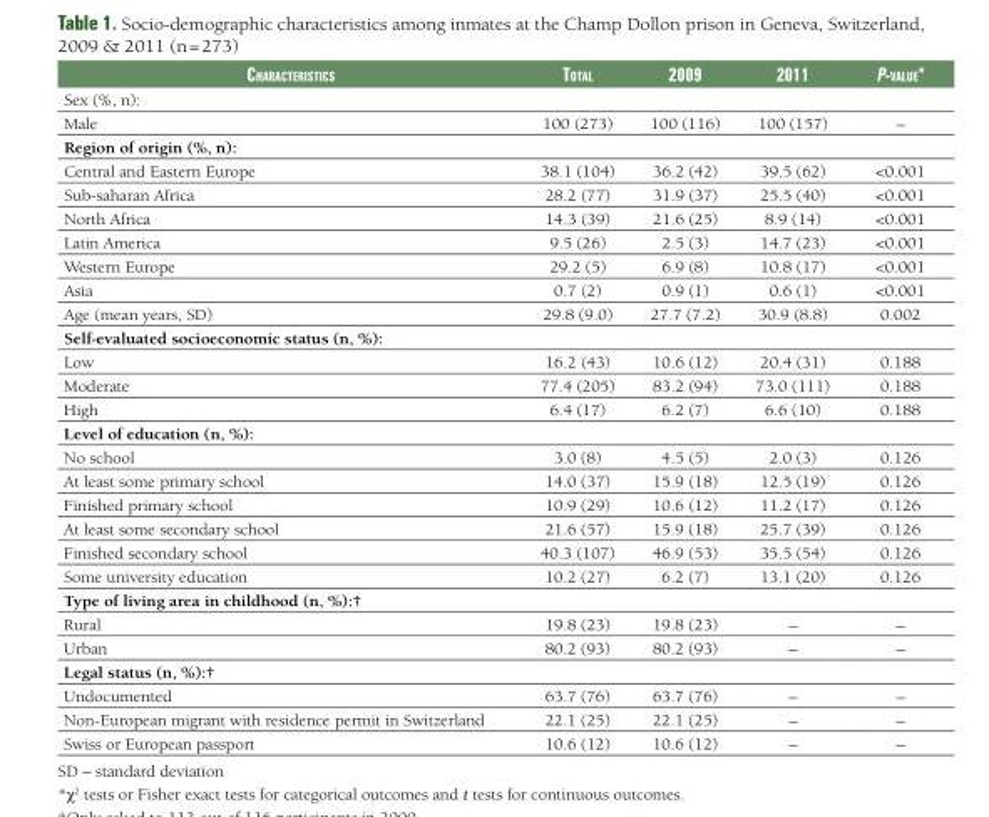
<table><thead><tr><td>CharaCteristiCs</td><td>total</td><td>2009</td><td>2011</td><td>P-value*</td></tr></thead><tbody><tr><td colspan="5">Sex (%, n):</td></tr><tr><td>Male</td><td>100 (273)</td><td>100 (116)</td><td>100 (157)</td><td>–</td></tr><tr><td colspan="5">Region of origin (%, n):</td></tr><tr><td>Central and Eastern Europe</td><td>38.1 (104)</td><td>36.2 (42)</td><td>39.5 (62)</td><td>&lt;0.001</td></tr><tr><td>Sub-saharan Africa</td><td>28.2 (77)</td><td>31.9 (37)</td><td>25.5 (40)</td><td>&lt;0.001</td></tr><tr><td>North Africa</td><td>14.3 (39)</td><td>21.6 (25)</td><td>8.9 (14)</td><td>&lt;0.001</td></tr><tr><td>Latin America</td><td>9.5 (26)</td><td>2.5 (3)</td><td>14.7 (23)</td><td>&lt;0.001</td></tr><tr><td>Western Europe</td><td>29.2 (5)</td><td>6.9 (8)</td><td>10.8 (17)</td><td>&lt;0.001</td></tr><tr><td>Asia</td><td>0.7 (2)</td><td>0.9 (1)</td><td>0.6 (1)</td><td>&lt;0.001</td></tr><tr><td>Age (mean years, SD)</td><td>29.8 (9.0)</td><td>27.7 (7.2)</td><td>30.9 (8.8)</td><td>0.002</td></tr><tr><td colspan="5">Self-evaluated socioeconomic status (n, %):</td></tr><tr><td>Low</td><td>16.2 (43)</td><td>10.6 (12)</td><td>20.4 (31)</td><td>0.188</td></tr><tr><td>Moderate</td><td>77.4 (205)</td><td>83.2 (94)</td><td>73.0 (111)</td><td>0.188</td></tr><tr><td>High</td><td>6.4 (17)</td><td>6.2 (7)</td><td>6.6 (10)</td><td>0.188</td></tr><tr><td colspan="5">Level of education (n, %):</td></tr><tr><td>No school</td><td>3.0 (8)</td><td>4.5 (5)</td><td>2.0 (3)</td><td>0.126</td></tr><tr><td>At least some primary school</td><td>14.0 (37)</td><td>15.9 (18)</td><td>12.5 (19)</td><td>0.126</td></tr><tr><td>Finished primary school</td><td>10.9 (29)</td><td>10.6 (12)</td><td>11.2 (17)</td><td>0.126</td></tr><tr><td>At least some secondary school</td><td>21.6 (57)</td><td>15.9 (18)</td><td>25.7 (39)</td><td>0.126</td></tr><tr><td>Finished secondary school</td><td>40.3 (107)</td><td>46.9 (53)</td><td>35.5 (54)</td><td>0.126</td></tr><tr><td>Some university education</td><td>10.2 (27)</td><td>6.2 (7)</td><td>13.1 (20)</td><td>0.126</td></tr><tr><td colspan="5">Type of living area in childhood (n, %):†</td></tr><tr><td>Rural</td><td>19.8 (23)</td><td>19.8 (23)</td><td>–</td><td>–</td></tr><tr><td>Urban</td><td>80.2 (93)</td><td>80.2 (93)</td><td>–</td><td>–</td></tr><tr><td colspan="5">Legal status (n, %):†</td></tr><tr><td>Undocumented</td><td>63.7 (76)</td><td>63.7 (76)</td><td>–</td><td>–</td></tr><tr><td>Non-European migrant with residence permit in Switzerland</td><td>22.1 (25)</td><td>22.1 (25)</td><td>–</td><td>–</td></tr><tr><td>Swiss or European passport</td><td>10.6 (12)</td><td>10.6 (12)</td><td>–</td><td>–</td></tr></tbody></table>